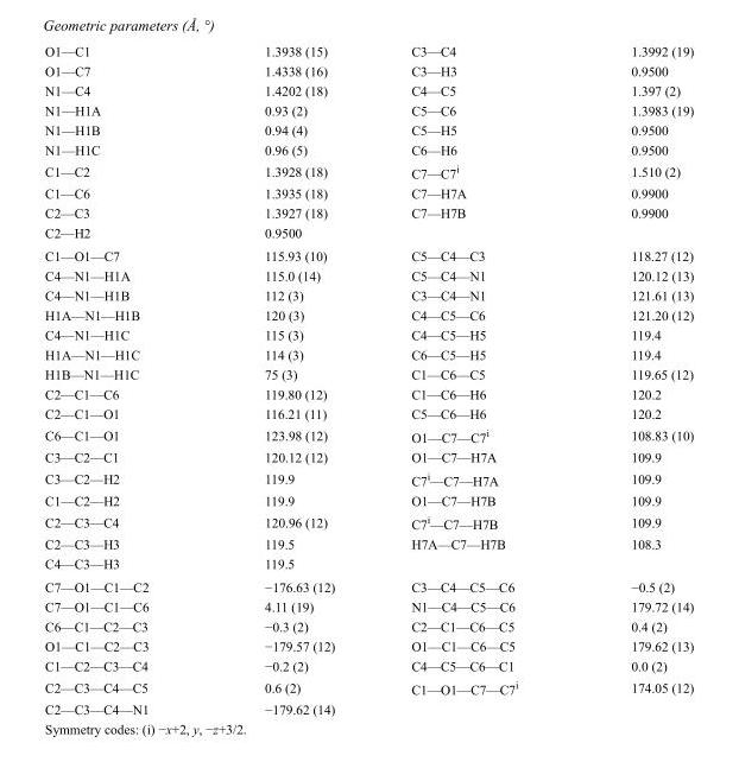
<table><tbody><tr><td>O1—C1</td><td>1.3938 (15)</td><td>C3—C4</td><td>1.3992 (19)</td></tr><tr><td>O1—C7</td><td>1.4338 (16)</td><td>C3—H3</td><td>0.9500</td></tr><tr><td>N1—C4</td><td>1.4202 (18)</td><td>C4—C5</td><td>1.397 (2)</td></tr><tr><td>N1—H1A</td><td>0.93 (2)</td><td>C5—C6</td><td>1.3983 (19)</td></tr><tr><td>N1—H1B</td><td>0.94 (4)</td><td>C5—H5</td><td>0.9500</td></tr><tr><td>N1—H1C</td><td>0.96 (5)</td><td>C6—H6</td><td>0.9500</td></tr><tr><td>C1—C2</td><td>1.3928 (18)</td><td>C7—C7<sup>i</sup></td><td>1.510 (2)</td></tr><tr><td>C1—C6</td><td>1.3935 (18)</td><td>C7—H7A</td><td>0.9900</td></tr><tr><td>C2—C3</td><td>1.3927 (18)</td><td>C7—H7B</td><td>0.9900</td></tr><tr><td>C2—H2</td><td>0.9500</td><td></td><td></td></tr><tr><td>C1—O1—C7</td><td>115.93 (10)</td><td>C5—C4—C3</td><td>118.27 (12)</td></tr><tr><td>C4—N1—H1A</td><td>115.0 (14)</td><td>C5—C4—N1</td><td>120.12 (13)</td></tr><tr><td>C4—N1—H1B</td><td>112 (3)</td><td>C3—C4—N1</td><td>121.61 (13)</td></tr><tr><td>H1A—N1—H1B</td><td>120 (3)</td><td>C4—C5—C6</td><td>121.20 (12)</td></tr><tr><td>C4—N1—H1C</td><td>115 (3)</td><td>C4—C5—H5</td><td>119.4</td></tr><tr><td>H1A—N1—H1C</td><td>114 (3)</td><td>C6—C5—H5</td><td>119.4</td></tr><tr><td>H1B—N1—H1C</td><td>75 (3)</td><td>C1—C6—C5</td><td>119.65 (12)</td></tr><tr><td>C2—C1—C6</td><td>119.80 (12)</td><td>C1—C6—H6</td><td>120.2</td></tr><tr><td>C2—C1—O1</td><td>116.21 (11)</td><td>C5—C6—H6</td><td>120.2</td></tr><tr><td>C6—C1—O1</td><td>123.98 (12)</td><td>O1—C7—C7<sup>i</sup></td><td>108.83 (10)</td></tr><tr><td>C3—C2—C1</td><td>120.12 (12)</td><td>O1—C7—H7A</td><td>109.9</td></tr><tr><td>C3—C2—H2</td><td>119.9</td><td>C7<sup>i</sup>—C7—H7A</td><td>109.9</td></tr><tr><td>C1—C2—H2</td><td>119.9</td><td>O1—C7—H7B</td><td>109.9</td></tr><tr><td>C2—C3—C4</td><td>120.96 (12)</td><td>C7<sup>i</sup>—C7—H7B</td><td>109.9</td></tr><tr><td>C2—C3—H3</td><td>119.5</td><td>H7A—C7—H7B</td><td>108.3</td></tr><tr><td>C4—C3—H3</td><td>119.5</td><td></td><td></td></tr><tr><td>C7—O1—C1—C2</td><td>−176.63 (12)</td><td>C3—C4—C5—C6</td><td>−0.5 (2)</td></tr><tr><td>C7—O1—C1—C6</td><td>4.11 (19)</td><td>N1—C4—C5—C6</td><td>179.72 (14)</td></tr><tr><td>C6—C1—C2—C3</td><td>−0.3 (2)</td><td>C2—C1—C6—C5</td><td>0.4 (2)</td></tr><tr><td>O1—C1—C2—C3</td><td>−179.57 (12)</td><td>O1—C1—C6—C5</td><td>179.62 (13)</td></tr><tr><td>C1—C2—C3—C4</td><td>−0.2 (2)</td><td>C4—C5—C6—C1</td><td>0.0 (2)</td></tr><tr><td>C2—C3—C4—C5</td><td>0.6 (2)</td><td>C1—O1—C7—C7<sup>i</sup></td><td>174.05 (12)</td></tr><tr><td>C2—C3—C4—N1</td><td>−179.62 (14)</td><td></td><td></td></tr></tbody></table>